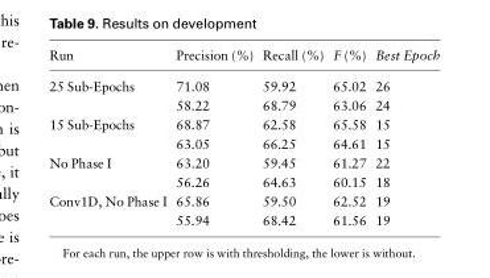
<table><thead><tr><td>Run</td><td>Precision (%)</td><td>Recall (%)</td><td>F (%)</td><td>Best Epoch</td></tr></thead><tbody><tr><td rowspan="2">25 Sub-Epochs</td><td>71.08</td><td>59.92</td><td>65.02</td><td>26</td></tr><tr><td>58.22</td><td>68.79</td><td>63.06</td><td>24</td></tr><tr><td rowspan="2">15 Sub-Epochs</td><td>68.87</td><td>62.58</td><td>65.58</td><td>15</td></tr><tr><td>63.05</td><td>66.25</td><td>64.61</td><td>15</td></tr><tr><td rowspan="2">No Phase I</td><td>63.20</td><td>59.45</td><td>61.27</td><td>22</td></tr><tr><td>56.26</td><td>64.63</td><td>60.15</td><td>18</td></tr><tr><td rowspan="2">Conv1D, No Phase I</td><td>65.86</td><td>59.50</td><td>62.52</td><td>19</td></tr><tr><td>55.94</td><td>68.42</td><td>61.56</td><td>19</td></tr></tbody></table>